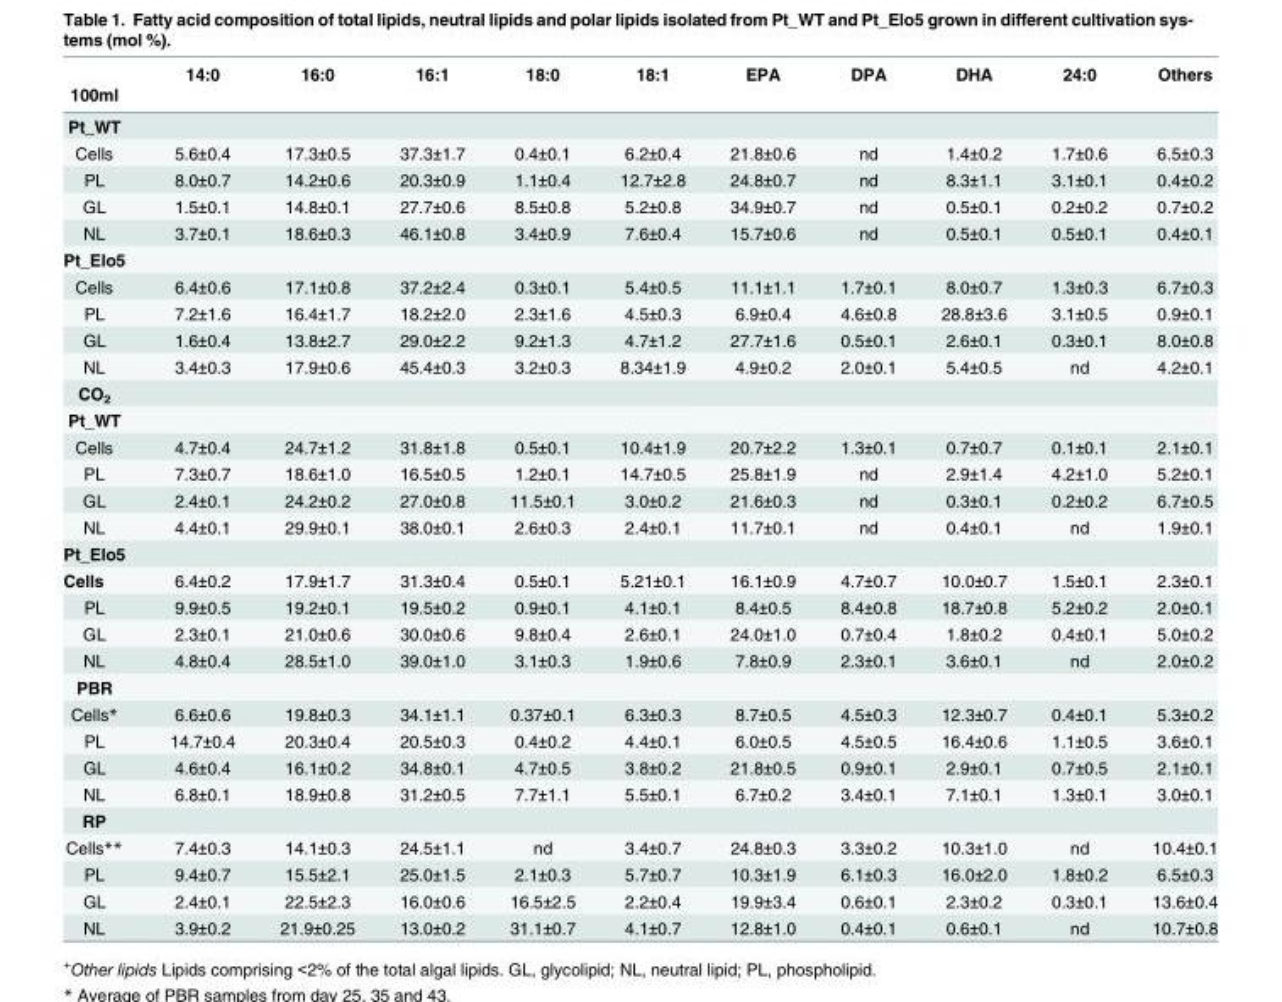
<table><thead><tr><td rowspan="2">100ml</td><td rowspan="2">14:0</td><td rowspan="2">16:0</td><td rowspan="2">16:1</td><td rowspan="2">18:0</td><td rowspan="2">18:1</td><td rowspan="2">EPA</td><td rowspan="2">DPA</td><td rowspan="2">DHA</td><td rowspan="2">24:0</td><td rowspan="2">Others</td></tr><tr></tr></thead><tbody><tr><td colspan="11">Pt_WT</td></tr><tr><td>Cells</td><td>5.6±0.4</td><td>17.3±0.5</td><td>37.3±1.7</td><td>0.4±0.1</td><td>6.2±0.4</td><td>21.8±0.6</td><td>nd</td><td>1.4±0.2</td><td>1.7±0.6</td><td>6.5±0.3</td></tr><tr><td>PL</td><td>8.0±0.7</td><td>14.2±0.6</td><td>20.3±0.9</td><td>1.1±0.4</td><td>12.7±2.8</td><td>24.8±0.7</td><td>nd</td><td>8.3±1.1</td><td>3.1±0.1</td><td>0.4±0.2</td></tr><tr><td>GL</td><td>1.5±0.1</td><td>14.8±0.1</td><td>27.7±0.6</td><td>8.5±0.8</td><td>5.2±0.8</td><td>34.9±0.7</td><td>nd</td><td>0.5±0.1</td><td>0.2±0.2</td><td>0.7±0.2</td></tr><tr><td>NL</td><td>3.7±0.1</td><td>18.6±0.3</td><td>46.1±0.8</td><td>3.4±0.9</td><td>7.6±0.4</td><td>15.7±0.6</td><td>nd</td><td>0.5±0.1</td><td>0.5±0.1</td><td>0.4±0.1</td></tr><tr><td colspan="11">Pt_Elo5</td></tr><tr><td>Cells</td><td>6.4±0.6</td><td>17.1±0.8</td><td>37.2±2.4</td><td>0.3±0.1</td><td>5.4±0.5</td><td>11.1±1.1</td><td>1.7±0.1</td><td>8.0±0.7</td><td>1.3±0.3</td><td>6.7±0.3</td></tr><tr><td>PL</td><td>7.2±1.6</td><td>16.4±1.7</td><td>18.2±2.0</td><td>2.3±1.6</td><td>4.5±0.3</td><td>6.9±0.4</td><td>4.6±0.8</td><td>28.8±3.6</td><td>3.1±0.5</td><td>0.9±0.1</td></tr><tr><td>GL</td><td>1.6±0.4</td><td>13.8±2.7</td><td>29.0±2.2</td><td>9.2±1.3</td><td>4.7±1.2</td><td>27.7±1.6</td><td>0.5±0.1</td><td>2.6±0.1</td><td>0.3±0.1</td><td>8.0±0.8</td></tr><tr><td>NL</td><td>3.4±0.3</td><td>17.9±0.6</td><td>45.4±0.3</td><td>3.2±0.3</td><td>8.34±1.9</td><td>4.9±0.2</td><td>2.0±0.1</td><td>5.4±0.5</td><td>nd</td><td>4.2±0.1</td></tr><tr><td colspan="11">CO<sub>2</sub></td></tr><tr><td colspan="11">Pt_WT</td></tr><tr><td>Cells</td><td>4.7±0.4</td><td>24.7±1.2</td><td>31.8±1.8</td><td>0.5±0.1</td><td>10.4±1.9</td><td>20.7±2.2</td><td>1.3±0.1</td><td>0.7±0.7</td><td>0.1±0.1</td><td>2.1±0.1</td></tr><tr><td>PL</td><td>7.3±0.7</td><td>18.6±1.0</td><td>16.5±0.5</td><td>1.2±0.1</td><td>14.7±0.5</td><td>25.8±1.9</td><td>nd</td><td>2.9±1.4</td><td>4.2±1.0</td><td>5.2±0.1</td></tr><tr><td>GL</td><td>2.4±0.1</td><td>24.2±0.2</td><td>27.0±0.8</td><td>11.5±0.1</td><td>3.0±0.2</td><td>21.6±0.3</td><td>nd</td><td>0.3±0.1</td><td>0.2±0.2</td><td>6.7±0.5</td></tr><tr><td>NL</td><td>4.4±0.1</td><td>29.9±0.1</td><td>38.0±0.1</td><td>2.6±0.3</td><td>2.4±0.1</td><td>11.7±0.1</td><td>nd</td><td>0.4±0.1</td><td>nd</td><td>1.9±0.1</td></tr><tr><td colspan="11">Pt_Elo5</td></tr><tr><td>Cells</td><td>6.4±0.2</td><td>17.9±1.7</td><td>31.3±0.4</td><td>0.5±0.1</td><td>5.21±0.1</td><td>16.1±0.9</td><td>4.7±0.7</td><td>10.0±0.7</td><td>1.5±0.1</td><td>2.3±0.1</td></tr><tr><td>PL</td><td>9.9±0.5</td><td>19.2±0.1</td><td>19.5±0.2</td><td>0.9±0.1</td><td>4.1±0.1</td><td>8.4±0.5</td><td>8.4±0.8</td><td>18.7±0.8</td><td>5.2±0.2</td><td>2.0±0.1</td></tr><tr><td>GL</td><td>2.3±0.1</td><td>21.0±0.6</td><td>30.0±0.6</td><td>9.8±0.4</td><td>2.6±0.1</td><td>24.0±1.0</td><td>0.7±0.4</td><td>1.8±0.2</td><td>0.4±0.1</td><td>5.0±0.2</td></tr><tr><td>NL</td><td>4.8±0.4</td><td>28.5±1.0</td><td>39.0±1.0</td><td>3.1±0.3</td><td>1.9±0.6</td><td>7.8±0.9</td><td>2.3±0.1</td><td>3.6±0.1</td><td>nd</td><td>2.0±0.2</td></tr><tr><td colspan="11">PBR</td></tr><tr><td>Cells*</td><td>6.6±0.6</td><td>19.8±0.3</td><td>34.1±1.1</td><td>0.37±0.1</td><td>6.3±0.3</td><td>8.7±0.5</td><td>4.5±0.3</td><td>12.3±0.7</td><td>0.4±0.1</td><td>5.3±0.2</td></tr><tr><td>PL</td><td>14.7±0.4</td><td>20.3±0.4</td><td>20.5±0.3</td><td>0.4±0.2</td><td>4.4±0.1</td><td>6.0±0.5</td><td>4.5±0.5</td><td>16.4±0.6</td><td>1.1±0.5</td><td>3.6±0.1</td></tr><tr><td>GL</td><td>4.6±0.4</td><td>16.1±0.2</td><td>34.8±0.1</td><td>4.7±0.5</td><td>3.8±0.2</td><td>21.8±0.5</td><td>0.9±0.1</td><td>2.9±0.1</td><td>0.7±0.5</td><td>2.1±0.1</td></tr><tr><td>NL</td><td>6.8±0.1</td><td>18.9±0.8</td><td>31.2±0.5</td><td>7.7±1.1</td><td>5.5±0.1</td><td>6.7±0.2</td><td>3.4±0.1</td><td>7.1±0.1</td><td>1.3±0.1</td><td>3.0±0.1</td></tr><tr><td colspan="11">RP</td></tr><tr><td>Cells**</td><td>7.4±0.3</td><td>14.1±0.3</td><td>24.5±1.1</td><td>nd</td><td>3.4±0.7</td><td>24.8±0.3</td><td>3.3±0.2</td><td>10.3±1.0</td><td>nd</td><td>10.4±0.1</td></tr><tr><td>PL</td><td>9.4±0.7</td><td>15.5±2.1</td><td>25.0±1.5</td><td>2.1±0.3</td><td>5.7±0.7</td><td>10.3±1.9</td><td>6.1±0.3</td><td>16.0±2.0</td><td>1.8±0.2</td><td>6.5±0.3</td></tr><tr><td>GL</td><td>2.4±0.1</td><td>22.5±2.3</td><td>16.0±0.6</td><td>16.5±2.5</td><td>2.2±0.4</td><td>19.9±3.4</td><td>0.6±0.1</td><td>2.3±0.2</td><td>0.3±0.1</td><td>13.6±0.4</td></tr><tr><td>NL</td><td>3.9±0.2</td><td>21.9±0.25</td><td>13.0±0.2</td><td>31.1±0.7</td><td>4.1±0.7</td><td>12.8±1.0</td><td>0.4±0.1</td><td>0.6±0.1</td><td>nd</td><td>10.7±0.8</td></tr></tbody></table>